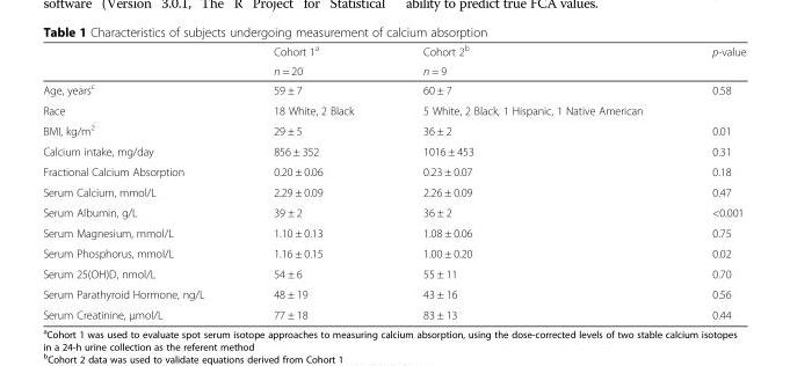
<table><thead><tr><td rowspan="2"></td><td rowspan="2">Cohort 1<sup>a</sup> n = 20</td><td rowspan="2">Cohort 2<sup>b</sup> n = 9</td><td rowspan="2">p-value</td></tr><tr></tr></thead><tbody><tr><td>Age, years<sup>c</sup></td><td>59 ± 7</td><td>60 ± 7</td><td>0.58</td></tr><tr><td>Race</td><td>18 White, 2 Black</td><td>5 White, 2 Black, 1 Hispanic, 1 Native American</td><td></td></tr><tr><td>BMI, kg/m<sup>2</sup></td><td>29 ± 5</td><td>36 ± 2</td><td>0.01</td></tr><tr><td>Calcium intake, mg/day</td><td>856 ± 352</td><td>1016 ± 453</td><td>0.31</td></tr><tr><td>Fractional Calcium Absorption</td><td>0.20 ± 0.06</td><td>0.23 ± 0.07</td><td>0.18</td></tr><tr><td>Serum Calcium, mmol/L</td><td>2.29 ± 0.09</td><td>2.26 ± 0.09</td><td>0.47</td></tr><tr><td>Serum Albumin, g/L</td><td>39 ± 2</td><td>36 ± 2</td><td>&lt;0.001</td></tr><tr><td>Serum Magnesium, mmol/L</td><td>1.10 ± 0.13</td><td>1.08 ± 0.06</td><td>0.75</td></tr><tr><td>Serum Phosphorus, mmol/L</td><td>1.16 ± 0.15</td><td>1.00 ± 0.20</td><td>0.02</td></tr><tr><td>Serum 25(OH)D, nmol/L</td><td>54 ± 6</td><td>55 ± 11</td><td>0.70</td></tr><tr><td>Serum Parathyroid Hormone, ng/L</td><td>48 ± 19</td><td>43 ± 16</td><td>0.56</td></tr><tr><td>Serum Creatinine, μmol/L</td><td>77 ± 18</td><td>83 ± 13</td><td>0.44</td></tr></tbody></table>